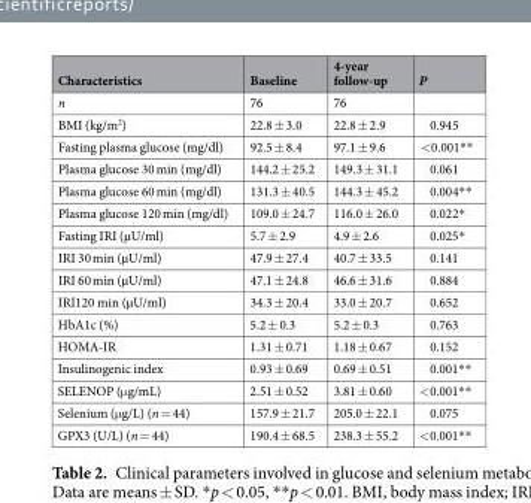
<table><thead><tr><td>Characteristics</td><td>Baseline</td><td>4-year follow-up</td><td>P</td></tr></thead><tbody><tr><td>n</td><td>76</td><td>76</td><td></td></tr><tr><td>BMI (kg/m<sup>2</sup>)</td><td>22.8 ± 3.0</td><td>22.8 ± 2.9</td><td>0.945</td></tr><tr><td>Fasting plasma glucose (mg/dl)</td><td>92.5 ± 8.4</td><td>97.1 ± 9.6</td><td>&lt;0.001**</td></tr><tr><td>Plasma glucose 30 min (mg/dl)</td><td>144.2 ± 25.2</td><td>149.3 ± 31.1</td><td>0.061</td></tr><tr><td>Plasma glucose 60 min (mg/dl)</td><td>131.3 ± 40.5</td><td>144.3 ± 45.2</td><td>0.004**</td></tr><tr><td>Plasma glucose 120 min (mg/dl)</td><td>109.0 ± 24.7</td><td>116.0 ± 26.0</td><td>0.022*</td></tr><tr><td>Fasting IRI (µU/ml)</td><td>5.7 ± 2.9</td><td>4.9 ± 2.6</td><td>0.025*</td></tr><tr><td>IRI 30 min (µU/ml)</td><td>47.9 ± 27.4</td><td>40.7 ± 33.5</td><td>0.141</td></tr><tr><td>IRI 60 min (µU/ml)</td><td>47.1 ± 24.8</td><td>46.6 ± 31.6</td><td>0.884</td></tr><tr><td>IRI120 min (µU/ml)</td><td>34.3 ± 20.4</td><td>33.0 ± 20.7</td><td>0.652</td></tr><tr><td>HbA1c (%)</td><td>5.2 ± 0.3</td><td>5.2 ± 0.3</td><td>0.763</td></tr><tr><td>HOMA-IR</td><td>1.31 ± 0.71</td><td>1.18 ± 0.67</td><td>0.152</td></tr><tr><td>Insulinogenic index</td><td>0.93 ± 0.69</td><td>0.69 ± 0.51</td><td>0.001**</td></tr><tr><td>SELENOP (μg/mL)</td><td>2.51 ± 0.52</td><td>3.81 ± 0.60</td><td>&lt;0.001**</td></tr><tr><td>Selenium (μg/L) (n = 44)</td><td>157.9 ± 21.7</td><td>205.0 ± 22.1</td><td>0.075</td></tr><tr><td>GPX3 (U/L) (n = 44)</td><td>190.4 ± 68.5</td><td>238.3 ± 55.2</td><td>&lt;0.001**</td></tr></tbody></table>